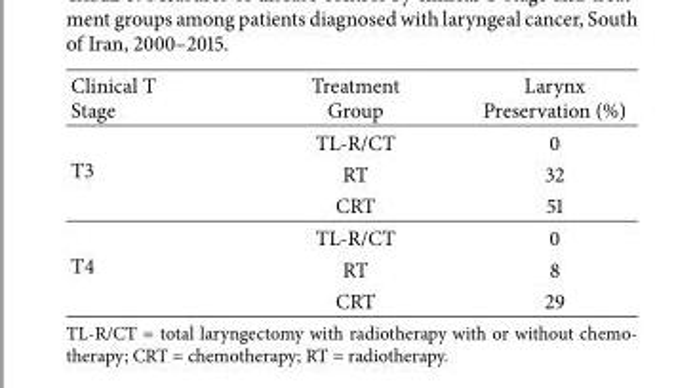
<table><thead><tr><td>Clinical T Stage</td><td>Treatment Group</td><td>Larynx Preservation (%)</td></tr></thead><tbody><tr><td rowspan="3">T3</td><td>TL-R/CT</td><td>0</td></tr><tr><td>RT</td><td>32</td></tr><tr><td>CRT</td><td>51</td></tr><tr><td rowspan="3">T4</td><td>TL-R/CT</td><td>0</td></tr><tr><td>RT</td><td>8</td></tr><tr><td>CRT</td><td>29</td></tr></tbody></table>